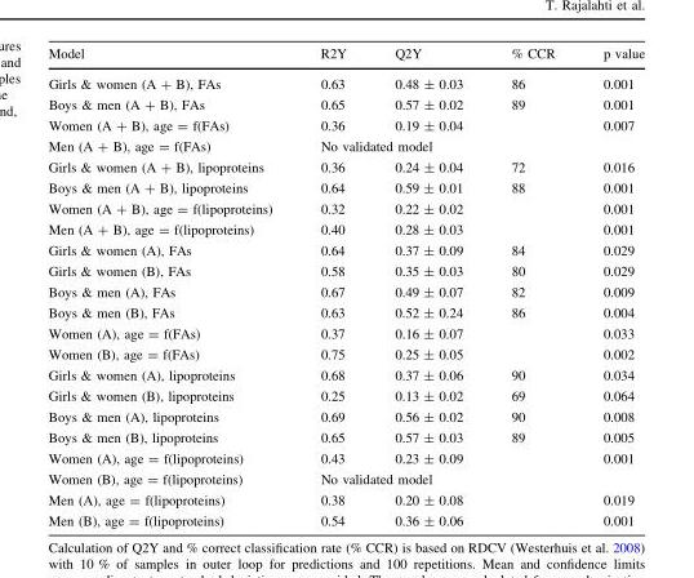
<table><thead><tr><td>Model</td><td>R2Y</td><td>Q2Y</td><td>% CCR</td><td>p value</td></tr></thead><tbody><tr><td>Girls &amp; women (A + B), FAs</td><td>0.63</td><td>0.48 ± 0.03</td><td>86</td><td>0.001</td></tr><tr><td>Boys &amp; men (A + B), FAs</td><td>0.65</td><td>0.57 ± 0.02</td><td>89</td><td>0.001</td></tr><tr><td>Women (A + B), age = f(FAs)</td><td>0.36</td><td>0.19 ± 0.04</td><td></td><td>0.007</td></tr><tr><td>Men (A + B), age = f(FAs)</td><td colspan="4">No validated model</td></tr><tr><td>Girls &amp; women (A + B), lipoproteins</td><td>0.36</td><td>0.24 ± 0.04</td><td>72</td><td>0.016</td></tr><tr><td>Boys &amp; men (A + B), lipoproteins</td><td>0.64</td><td>0.59 ± 0.01</td><td>88</td><td>0.001</td></tr><tr><td>Women (A + B), age = f(lipoproteins)</td><td>0.32</td><td>0.22 ± 0.02</td><td></td><td>0.001</td></tr><tr><td>Men (A + B), age = f(lipoproteins)</td><td>0.40</td><td>0.28 ± 0.03</td><td></td><td>0.001</td></tr><tr><td>Girls &amp; women (A), FAs</td><td>0.64</td><td>0.37 ± 0.09</td><td>84</td><td>0.029</td></tr><tr><td>Girls &amp; women (B), FAs</td><td>0.58</td><td>0.35 ± 0.03</td><td>80</td><td>0.029</td></tr><tr><td>Boys &amp; men (A), FAs</td><td>0.67</td><td>0.49 ± 0.07</td><td>82</td><td>0.009</td></tr><tr><td>Boys &amp; men (B), FAs</td><td>0.63</td><td>0.52 ± 0.24</td><td>86</td><td>0.004</td></tr><tr><td>Women (A), age = f(FAs)</td><td>0.37</td><td>0.16 ± 0.07</td><td></td><td>0.033</td></tr><tr><td>Women (B), age = f(FAs)</td><td>0.75</td><td>0.25 ± 0.05</td><td></td><td>0.002</td></tr><tr><td>Girls &amp; women (A), lipoproteins</td><td>0.68</td><td>0.37 ± 0.06</td><td>90</td><td>0.034</td></tr><tr><td>Girls &amp; women (B), lipoproteins</td><td>0.25</td><td>0.13 ± 0.02</td><td>69</td><td>0.064</td></tr><tr><td>Boys &amp; men (A), lipoproteins</td><td>0.69</td><td>0.56 ± 0.02</td><td>90</td><td>0.008</td></tr><tr><td>Boys &amp; men (B), lipoproteins</td><td>0.65</td><td>0.57 ± 0.03</td><td>89</td><td>0.005</td></tr><tr><td>Women (A), age = f(lipoproteins)</td><td>0.43</td><td>0.23 ± 0.09</td><td></td><td>0.001</td></tr><tr><td>Women (B), age = f(lipoproteins)</td><td colspan="3">No validated model</td><td></td></tr><tr><td>Men (A), age = f(lipoproteins)</td><td>0.38</td><td>0.20 ± 0.08</td><td></td><td>0.019</td></tr><tr><td>Men (B), age = f(lipoproteins)</td><td>0.54</td><td>0.36 ± 0.06</td><td></td><td>0.001</td></tr></tbody></table>